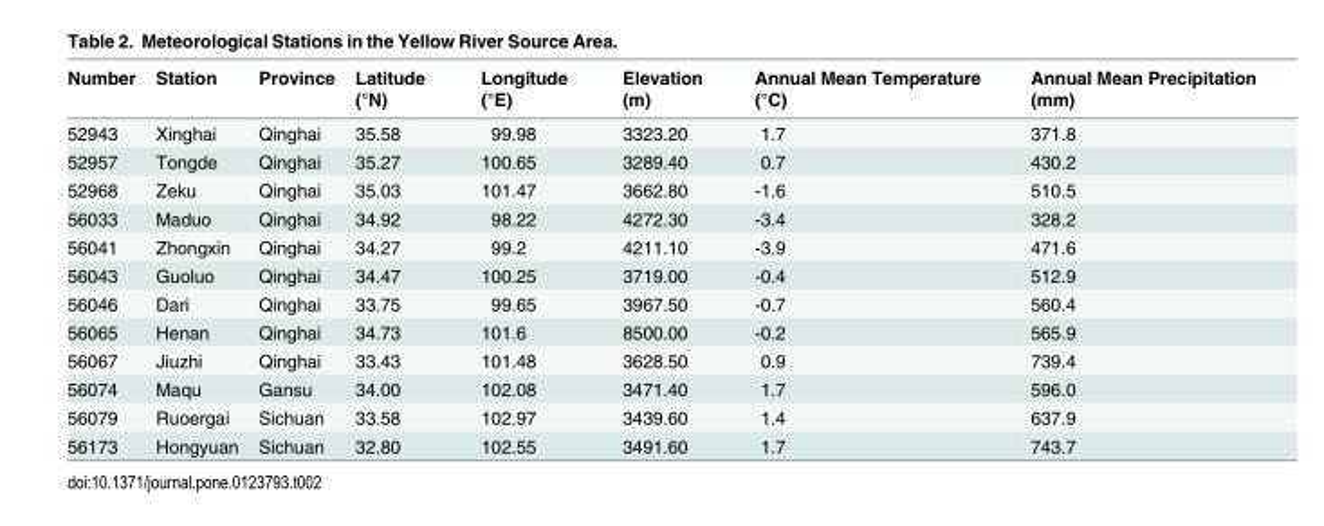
<table><thead><tr><td>Number</td><td>Station</td><td>Province</td><td>Latitude (°N)</td><td>Longitude (°E)</td><td>Elevation (m)</td><td>Annual Mean Temperature (°C)</td><td>Annual Mean Precipitation (mm)</td></tr></thead><tbody><tr><td>52943</td><td>Xinghai</td><td>Qinghai</td><td>35.58</td><td>99.98</td><td>3323.20</td><td>1.7</td><td>371.8</td></tr><tr><td>52957</td><td>Tongde</td><td>Qinghai</td><td>35.27</td><td>100.65</td><td>3289.40</td><td>0.7</td><td>430.2</td></tr><tr><td>52968</td><td>Zeku</td><td>Qinghai</td><td>35.03</td><td>101.47</td><td>3662.80</td><td>-1.6</td><td>510.5</td></tr><tr><td>56033</td><td>Maduo</td><td>Qinghai</td><td>34.92</td><td>98.22</td><td>4272.30</td><td>-3.4</td><td>328.2</td></tr><tr><td>56041</td><td>Zhongxin</td><td>Qinghai</td><td>34.27</td><td>99.2</td><td>4211.10</td><td>-3.9</td><td>471.6</td></tr><tr><td>56043</td><td>Guoluo</td><td>Qinghai</td><td>34.47</td><td>100.25</td><td>3719.00</td><td>-0.4</td><td>512.9</td></tr><tr><td>56046</td><td>Dari</td><td>Qinghai</td><td>33.75</td><td>99.65</td><td>3967.50</td><td>-0.7</td><td>560.4</td></tr><tr><td>56065</td><td>Henan</td><td>Qinghai</td><td>34.73</td><td>101.6</td><td>8500.00</td><td>-0.2</td><td>565.9</td></tr><tr><td>56067</td><td>Jiuzhi</td><td>Qinghai</td><td>33.43</td><td>101.48</td><td>3628.50</td><td>0.9</td><td>739.4</td></tr><tr><td>56074</td><td>Maqu</td><td>Gansu</td><td>34.00</td><td>102.08</td><td>3471.40</td><td>1.7</td><td>596.0</td></tr><tr><td>56079</td><td>Ruoergai</td><td>Sichuan</td><td>33.58</td><td>102.97</td><td>3439.60</td><td>1.4</td><td>637.9</td></tr><tr><td>56173</td><td>Hongyuan</td><td>Sichuan</td><td>32.80</td><td>102.55</td><td>3491.60</td><td>1.7</td><td>743.7</td></tr></tbody></table>